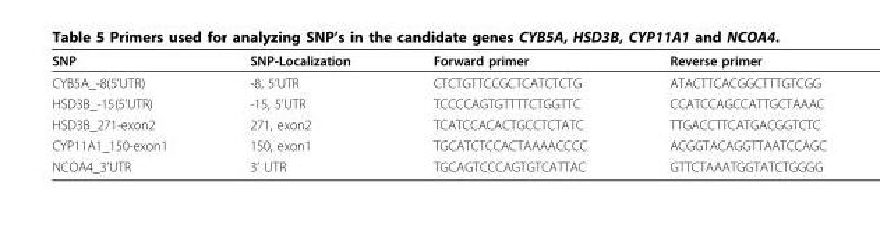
<table><thead><tr><td>SNP</td><td>SNP-Localization</td><td>Forward primer</td><td>Reverse primer</td></tr></thead><tbody><tr><td>CYB5A_-8(5’UTR)</td><td>-8, 5’UTR</td><td>CTCTGTTCCGCTCATCTCTG</td><td>ATACTTCACGGCTTTGTCGG</td></tr><tr><td>HSD3B_-15(5’UTR)</td><td>-15, 5’UTR</td><td>TCCCCAGTGTTTTCTGGTTC</td><td>CCATCCAGCCATTGCTAAAC</td></tr><tr><td>HSD3B_271-exon2</td><td>271, exon2</td><td>TCATCCACACTGCCTCTATC</td><td>TTGACCTTCATGACGGTCTC</td></tr><tr><td>CYP11A1_150-exon1</td><td>150, exon1</td><td>TGCATCTCCACTAAAACCCC</td><td>ACGGTACAGGTTAATCCAGC</td></tr><tr><td>NCOA4_3’UTR</td><td>3’ UTR</td><td>TGCAGTCCCAGTGTCATTAC</td><td>GTTCTAAATGGTATCTGGGG</td></tr></tbody></table>